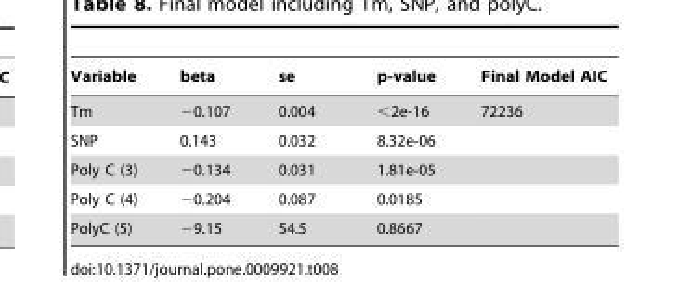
<table><thead><tr><td>Variable</td><td>beta</td><td>se</td><td>p-value</td><td>Final Model AIC</td></tr></thead><tbody><tr><td>Tm</td><td>−0.107</td><td>0.004</td><td>&lt;2e-16</td><td>72236</td></tr><tr><td>SNP</td><td>0.143</td><td>0.032</td><td>8.32e-06</td><td></td></tr><tr><td>Poly C (3)</td><td>−0.134</td><td>0.031</td><td>1.81e-05</td><td></td></tr><tr><td>Poly C (4)</td><td>−0.204</td><td>0.087</td><td>0.0185</td><td></td></tr><tr><td>PolyC (5)</td><td>−9.15</td><td>54.5</td><td>0.8667</td><td></td></tr></tbody></table>